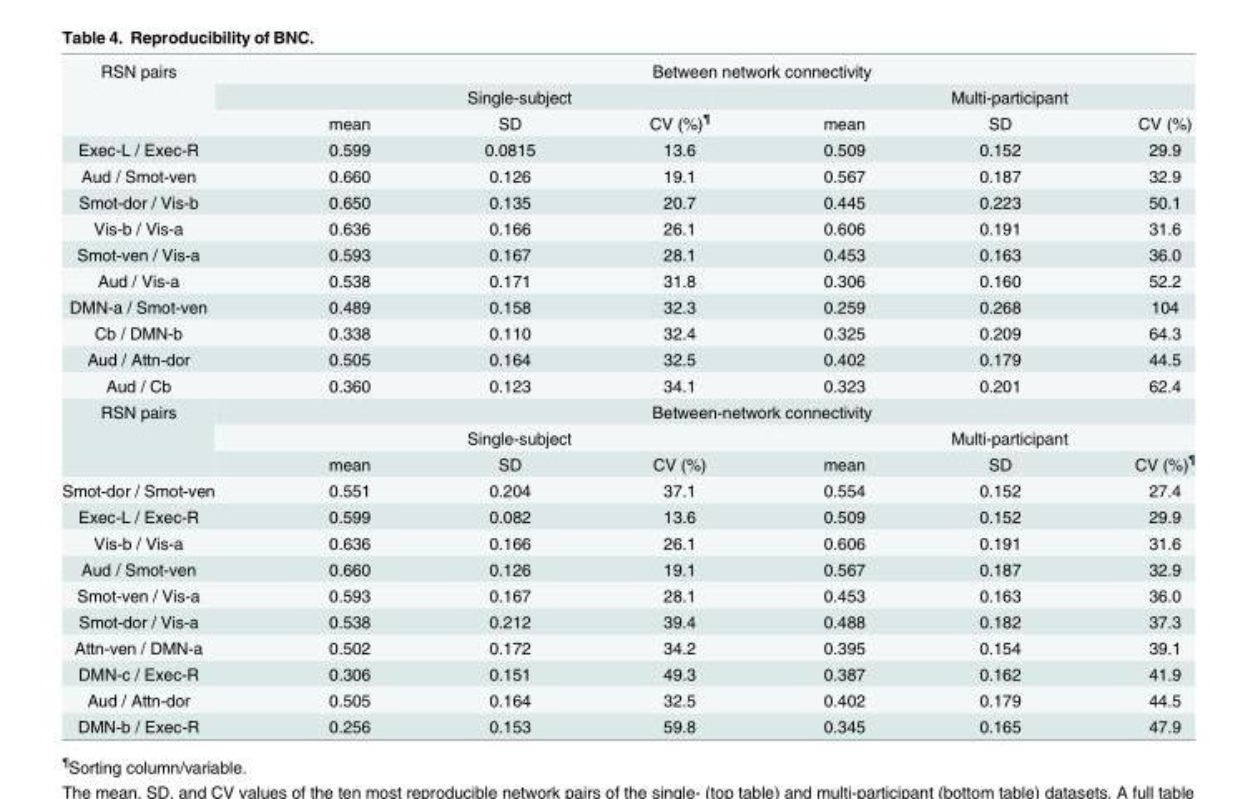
<table><tbody><tr><td rowspan="3">RSN pairs</td><td colspan="6">Between network connectivity</td></tr><tr><td colspan="3">Single-subject</td><td colspan="3">Multi-participant</td></tr><tr><td>mean</td><td>SD</td><td>CV (%)<sup>¶</sup></td><td>mean</td><td>SD</td><td>CV (%)</td></tr><tr><td>Exec-L / Exec-R</td><td>0.599</td><td>0.0815</td><td>13.6</td><td>0.509</td><td>0.152</td><td>29.9</td></tr><tr><td>Aud / Smot-ven</td><td>0.660</td><td>0.126</td><td>19.1</td><td>0.567</td><td>0.187</td><td>32.9</td></tr><tr><td>Smot-dor / Vis-b</td><td>0.650</td><td>0.135</td><td>20.7</td><td>0.445</td><td>0.223</td><td>50.1</td></tr><tr><td>Vis-b / Vis-a</td><td>0.636</td><td>0.166</td><td>26.1</td><td>0.606</td><td>0.191</td><td>31.6</td></tr><tr><td>Smot-ven / Vis-a</td><td>0.593</td><td>0.167</td><td>28.1</td><td>0.453</td><td>0.163</td><td>36.0</td></tr><tr><td>Aud / Vis-a</td><td>0.538</td><td>0.171</td><td>31.8</td><td>0.306</td><td>0.160</td><td>52.2</td></tr><tr><td>DMN-a / Smot-ven</td><td>0.489</td><td>0.158</td><td>32.3</td><td>0.259</td><td>0.268</td><td>104</td></tr><tr><td>Cb / DMN-b</td><td>0.338</td><td>0.110</td><td>32.4</td><td>0.325</td><td>0.209</td><td>64.3</td></tr><tr><td>Aud / Attn-dor</td><td>0.505</td><td>0.164</td><td>32.5</td><td>0.402</td><td>0.179</td><td>44.5</td></tr><tr><td>Aud / Cb</td><td>0.360</td><td>0.123</td><td>34.1</td><td>0.323</td><td>0.201</td><td>62.4</td></tr><tr><td rowspan="3">RSN pairs</td><td colspan="6">Between-network connectivity</td></tr><tr><td colspan="3">Single-subject</td><td colspan="3">Multi-participant</td></tr><tr><td>mean</td><td>SD</td><td>CV (%)</td><td>mean</td><td>SD</td><td>CV (%)<sup>¶</sup></td></tr><tr><td>Smot-dor / Smot-ven</td><td>0.551</td><td>0.204</td><td>37.1</td><td>0.554</td><td>0.152</td><td>27.4</td></tr><tr><td>Exec-L / Exec-R</td><td>0.599</td><td>0.082</td><td>13.6</td><td>0.509</td><td>0.152</td><td>29.9</td></tr><tr><td>Vis-b / Vis-a</td><td>0.636</td><td>0.166</td><td>26.1</td><td>0.606</td><td>0.191</td><td>31.6</td></tr><tr><td>Aud / Smot-ven</td><td>0.660</td><td>0.126</td><td>19.1</td><td>0.567</td><td>0.187</td><td>32.9</td></tr><tr><td>Smot-ven / Vis-a</td><td>0.593</td><td>0.167</td><td>28.1</td><td>0.453</td><td>0.163</td><td>36.0</td></tr><tr><td>Smot-dor / Vis-a</td><td>0.538</td><td>0.212</td><td>39.4</td><td>0.488</td><td>0.182</td><td>37.3</td></tr><tr><td>Attn-ven / DMN-a</td><td>0.502</td><td>0.172</td><td>34.2</td><td>0.395</td><td>0.154</td><td>39.1</td></tr><tr><td>DMN-c / Exec-R</td><td>0.306</td><td>0.151</td><td>49.3</td><td>0.387</td><td>0.162</td><td>41.9</td></tr><tr><td>Aud / Attn-dor</td><td>0.505</td><td>0.164</td><td>32.5</td><td>0.402</td><td>0.179</td><td>44.5</td></tr><tr><td>DMN-b / Exec-R</td><td>0.256</td><td>0.153</td><td>59.8</td><td>0.345</td><td>0.165</td><td>47.9</td></tr></tbody></table>